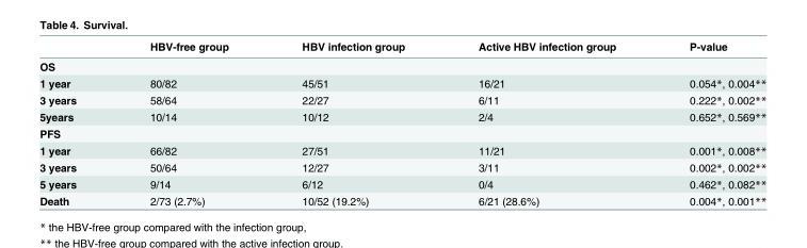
<table><thead><tr><td></td><td>HBV-free group</td><td>HBV infection group</td><td>Active HBV infection group</td><td>P-value</td></tr></thead><tbody><tr><td colspan="5">OS</td></tr><tr><td>1 year</td><td>80/82</td><td>45/51</td><td>16/21</td><td>0.054*, 0.004**</td></tr><tr><td>3 years</td><td>58/64</td><td>22/27</td><td>6/11</td><td>0.222*, 0.002**</td></tr><tr><td>5years</td><td>10/14</td><td>10/12</td><td>2/4</td><td>0.652*, 0.569**</td></tr><tr><td colspan="5">PFS</td></tr><tr><td>1 year</td><td>66/82</td><td>27/51</td><td>11/21</td><td>0.001*, 0.008**</td></tr><tr><td>3 years</td><td>50/64</td><td>12/27</td><td>3/11</td><td>0.002*, 0.002**</td></tr><tr><td>5 years</td><td>9/14</td><td>6/12</td><td>0/4</td><td>0.462*, 0.082**</td></tr><tr><td>Death</td><td>2/73 (2.7%)</td><td>10/52 (19.2%)</td><td>6/21 (28.6%)</td><td>0.004*, 0.001**</td></tr></tbody></table>